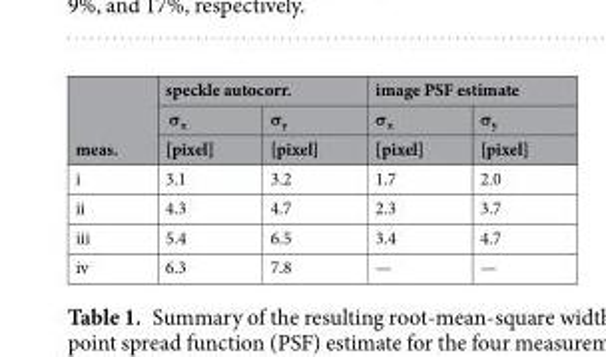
<table><thead><tr><td rowspan="3">meas.</td><td colspan="2">speckle autocorr.</td><td colspan="2">image PSF estimate</td></tr><tr><td rowspan="2">σ<sub>x</sub> [pixel]</td><td rowspan="2">σ<sub>y</sub> [pixel]</td><td rowspan="2">σ<sub>x</sub> [pixel]</td><td rowspan="2">σ<sub>y</sub> [pixel]</td></tr><tr></tr></thead><tbody><tr><td>i</td><td>3.1</td><td>3.2</td><td>1.7</td><td>2.0</td></tr><tr><td>ii</td><td>4.3</td><td>4.7</td><td>2.3</td><td>3.7</td></tr><tr><td>iii</td><td>5.4</td><td>6.5</td><td>3.4</td><td>4.7</td></tr><tr><td>iv</td><td>6.3</td><td>7.8</td><td>—</td><td>—</td></tr></tbody></table>